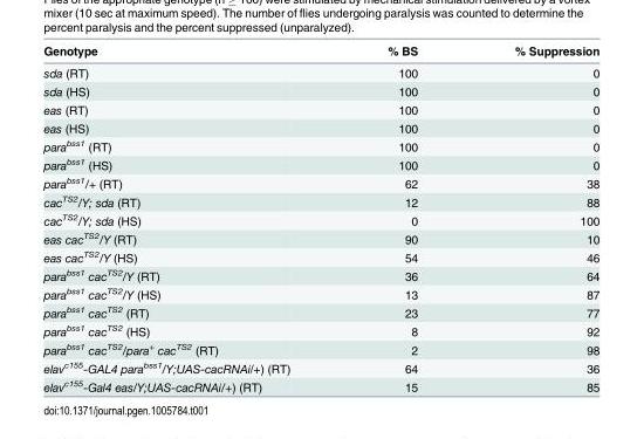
<table><thead><tr><td>Genotype</td><td>% BS</td><td>% Suppression</td></tr></thead><tbody><tr><td>sda (RT)</td><td>100</td><td>0</td></tr><tr><td>sda (HS)</td><td>100</td><td>0</td></tr><tr><td>eas (RT)</td><td>100</td><td>0</td></tr><tr><td>eas (HS)</td><td>100</td><td>0</td></tr><tr><td>para<sup>bss1</sup> (RT)</td><td>100</td><td>0</td></tr><tr><td>para<sup>bss1</sup> (HS)</td><td>100</td><td>0</td></tr><tr><td>para<sup>bss1</sup>/+ (RT)</td><td>62</td><td>38</td></tr><tr><td>cac<sup>TS2</sup>/Y; sda (RT)</td><td>12</td><td>88</td></tr><tr><td>cac<sup>TS2</sup>/Y; sda (HS)</td><td>0</td><td>100</td></tr><tr><td>eas cac<sup>TS2</sup>/Y (RT)</td><td>90</td><td>10</td></tr><tr><td>eas cac<sup>TS2</sup>/Y (HS)</td><td>54</td><td>46</td></tr><tr><td>para<sup>bss1</sup> cac<sup>TS2</sup>/Y (RT)</td><td>36</td><td>64</td></tr><tr><td>para<sup>bss1</sup> cac<sup>TS2</sup>/Y (HS)</td><td>13</td><td>87</td></tr><tr><td>para<sup>bss1</sup> cac<sup>TS2</sup> (RT)</td><td>23</td><td>77</td></tr><tr><td>para<sup>bss1</sup> cac<sup>TS2</sup> (HS)</td><td>8</td><td>92</td></tr><tr><td>para<sup>bss1</sup> cac<sup>TS2</sup>/para<sup>+</sup> cac<sup>TS2</sup> (RT)</td><td>2</td><td>98</td></tr><tr><td>elav<sup>c155</sup>-GAL4 para<sup>bss1</sup>/Y;UAS-cacRNAi/+) (RT)</td><td>64</td><td>36</td></tr><tr><td>elav<sup>c155</sup>-Gal4 eas/Y;UAS-cacRNAi/+) (RT)</td><td>15</td><td>85</td></tr></tbody></table>